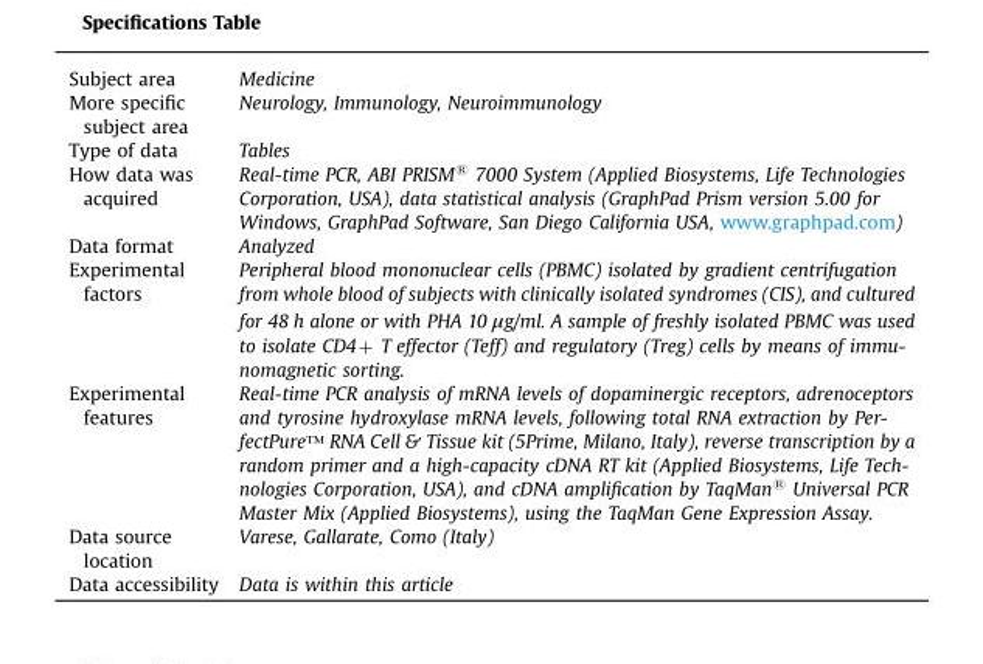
<table><tbody><tr><td>Subject area</td><td>Medicine</td></tr><tr><td>More specific subject area</td><td>Neurology, Immunology, Neuroimmunology</td></tr><tr><td>Type of data</td><td>Tables</td></tr><tr><td>How data was acquired</td><td>Real-time PCR, ABI PRISM® 7000 System (Applied Biosystems, Life Technologies Corporation, USA), data statistical analysis (GraphPad Prism version 5.00 for Windows, GraphPad Software, San Diego California USA, www.graphpad.com)</td></tr><tr><td>Data format</td><td>Analyzed</td></tr><tr><td>Experimental factors</td><td>Peripheral blood mononuclear cells (PBMC) isolated by gradient centrifugation from whole blood of subjects with clinically isolated syndromes (CIS), and cultured for 48 h alone or with PHA 10 μg/ml. A sample of freshly isolated PBMC was used to isolate CD4þ T effector (Teff) and regulatory (Treg) cells by means of immu- nomagnetic sorting.</td></tr><tr><td>Experimental features</td><td>Real-time PCR analysis of mRNA levels of dopaminergic receptors, adrenoceptors and tyrosine hydroxylase mRNA levels, following total RNA extraction by Per- fectPure™ RNA Cell &amp; Tissue kit (5Prime, Milano, Italy), reverse transcription by a random primer and a high-capacity cDNA RT kit (Applied Biosystems, Life Tech- nologies Corporation, USA), and cDNA amplification by TaqMans Universal PCR Master Mix (Applied Biosystems), using the TaqMan Gene Expression Assay.</td></tr><tr><td>Data source location</td><td>Varese, Gallarate, Como (Italy)</td></tr><tr><td>Data accessibility</td><td>Data is within this article</td></tr></tbody></table>